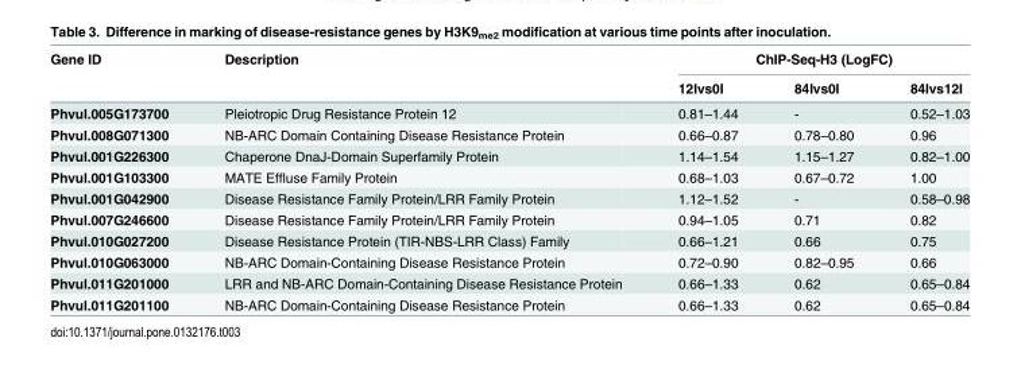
<table><thead><tr><td rowspan="2">Gene ID</td><td rowspan="2">Description</td><td colspan="3">ChIP-Seq-H3 (LogFC)</td></tr><tr><td>12Ivs0I</td><td>84Ivs0I</td><td>84Ivs12I</td></tr></thead><tbody><tr><td>Phvul.005G173700</td><td>Pleiotropic Drug Resistance Protein 12</td><td>0.81–1.44</td><td>-</td><td>0.52–1.03</td></tr><tr><td>Phvul.008G071300</td><td>NB-ARC Domain Containing Disease Resistance Protein</td><td>0.66–0.87</td><td>0.78–0.80</td><td>0.96</td></tr><tr><td>Phvul.001G226300</td><td>Chaperone DnaJ-Domain Superfamily Protein</td><td>1.14–1.54</td><td>1.15–1.27</td><td>0.82–1.00</td></tr><tr><td>Phvul.001G103300</td><td>MATE Effluse Family Protein</td><td>0.68–1.03</td><td>0.67–0.72</td><td>1.00</td></tr><tr><td>Phvul.001G042900</td><td>Disease Resistance Family Protein/LRR Family Protein</td><td>1.12–1.52</td><td>-</td><td>0.58–0.98</td></tr><tr><td>Phvul.007G246600</td><td>Disease Resistance Family Protein/LRR Family Protein</td><td>0.94–1.05</td><td>0.71</td><td>0.82</td></tr><tr><td>Phvul.010G027200</td><td>Disease Resistance Protein (TIR-NBS-LRR Class) Family</td><td>0.66–1.21</td><td>0.66</td><td>0.75</td></tr><tr><td>Phvul.010G063000</td><td>NB-ARC Domain-Containing Disease Resistance Protein</td><td>0.72–0.90</td><td>0.82–0.95</td><td>0.66</td></tr><tr><td>Phvul.011G201000</td><td>LRR and NB-ARC Domain-Containing Disease Resistance Protein</td><td>0.66–1.33</td><td>0.62</td><td>0.65–0.84</td></tr><tr><td>Phvul.011G201100</td><td>NB-ARC Domain-Containing Disease Resistance Protein</td><td>0.66–1.33</td><td>0.62</td><td>0.65–0.84</td></tr></tbody></table>